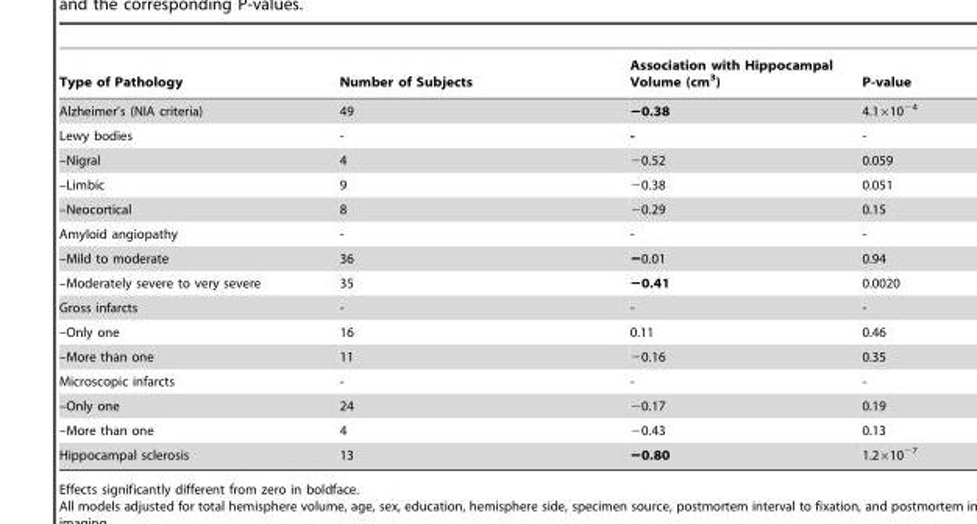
<table><thead><tr><td>Type of Pathology</td><td>Number of Subjects</td><td>Association with Hippocampal Volume (cm<sup>3</sup>)</td><td>P-value</td></tr></thead><tbody><tr><td>Alzheimer’s (NIA criteria)</td><td>49</td><td>−0.38</td><td>4.1×10<sup>−4</sup></td></tr><tr><td>Lewy bodies</td><td>-</td><td>-</td><td>-</td></tr><tr><td>–Nigral</td><td>4</td><td>−0.52</td><td>0.059</td></tr><tr><td>–Limbic</td><td>9</td><td>−0.38</td><td>0.051</td></tr><tr><td>–Neocortical</td><td>8</td><td>−0.29</td><td>0.15</td></tr><tr><td>Amyloid angiopathy</td><td>-</td><td>-</td><td>-</td></tr><tr><td>–Mild to moderate</td><td>36</td><td>−0.01</td><td>0.94</td></tr><tr><td>–Moderately severe to very severe</td><td>35</td><td>−0.41</td><td>0.0020</td></tr><tr><td>Gross infarcts</td><td>-</td><td>-</td><td>-</td></tr><tr><td>–Only one</td><td>16</td><td>0.11</td><td>0.46</td></tr><tr><td>–More than one</td><td>11</td><td>−0.16</td><td>0.35</td></tr><tr><td>Microscopic infarcts</td><td>-</td><td>-</td><td>-</td></tr><tr><td>–Only one</td><td>24</td><td>−0.17</td><td>0.19</td></tr><tr><td>–More than one</td><td>4</td><td>−0.43</td><td>0.13</td></tr><tr><td>Hippocampal sclerosis</td><td>13</td><td>−0.80</td><td>1.2×10<sup>−7</sup></td></tr></tbody></table>